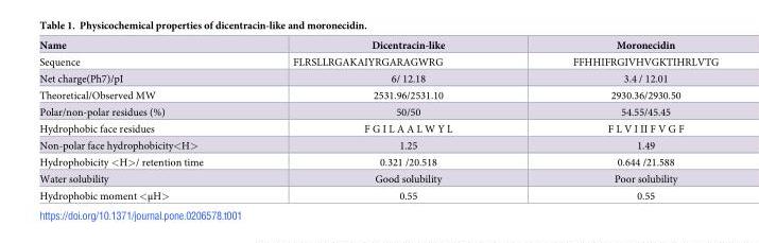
<table><thead><tr><td>Name</td><td>Dicentracin-like</td><td>Moronecidin</td></tr></thead><tbody><tr><td>Sequence</td><td>FLRSLLRGAKAIYRGARAGWRG</td><td>FFHHIFRGIVHVGKTIHRLVTG</td></tr><tr><td>Net charge(Ph7)/pI</td><td>6/ 12.18</td><td>3.4 / 12.01</td></tr><tr><td>Theoretical/Observed MW</td><td>2531.96/2531.10</td><td>2930.36/2930.50</td></tr><tr><td>Polar/non-polar residues (%)</td><td>50/50</td><td>54.55/45.45</td></tr><tr><td>Hydrophobic face residues</td><td>F G I L A A L W Y L</td><td>F L V I II F V G F</td></tr><tr><td>Non-polar face hydrophobicity&lt;H&gt;</td><td>1.25</td><td>1.49</td></tr><tr><td>Hydrophobicity &lt;H&gt;/ retention time</td><td>0.321 /20.518</td><td>0.644 /21.588</td></tr><tr><td>Water solubility</td><td>Good solubility</td><td>Poor solubility</td></tr><tr><td>Hydrophobic moment &lt;μH&gt;</td><td>0.55</td><td>0.55</td></tr></tbody></table>